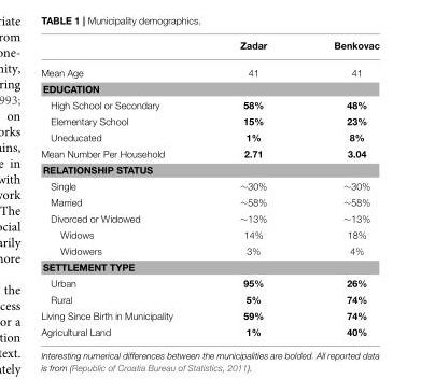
<table><thead><tr><td></td><td>Zadar</td><td>Benkovac</td></tr></thead><tbody><tr><td>Mean Age</td><td>41</td><td>41</td></tr><tr><td colspan="3">EDUCATION</td></tr><tr><td>High School or Secondary</td><td>58%</td><td>48%</td></tr><tr><td>Elementary School</td><td>15%</td><td>23%</td></tr><tr><td>Uneducated</td><td>1%</td><td>8%</td></tr><tr><td>Mean Number Per Household</td><td>2.71</td><td>3.04</td></tr><tr><td colspan="3">RELATIONSHIP STATUS</td></tr><tr><td>Single</td><td>∼30%</td><td>∼30%</td></tr><tr><td>Married</td><td>∼58%</td><td>∼58%</td></tr><tr><td>Divorced or Widowed</td><td>∼13%</td><td>∼13%</td></tr><tr><td>Widows</td><td>14%</td><td>18%</td></tr><tr><td>Widowers</td><td>3%</td><td>4%</td></tr><tr><td colspan="3">SETTLEMENT TYPE</td></tr><tr><td>Urban</td><td>95%</td><td>26%</td></tr><tr><td>Rural</td><td>5%</td><td>74%</td></tr><tr><td>Living Since Birth in Municipality</td><td>59%</td><td>74%</td></tr><tr><td>Agricultural Land</td><td>1%</td><td>40%</td></tr></tbody></table>